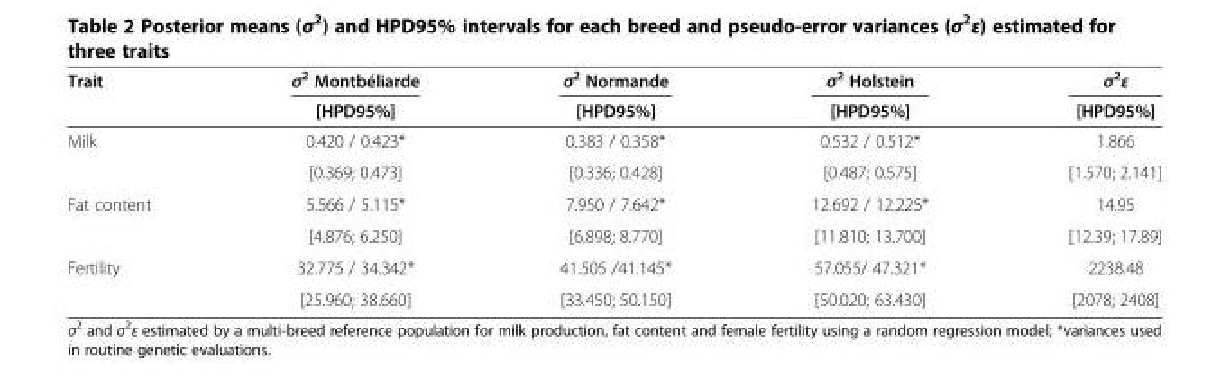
<table><thead><tr><td rowspan="2">Trait</td><td rowspan="2">σ<sup>2</sup> Montbéliarde [HPD95%]</td><td rowspan="2">σ<sup>2</sup> Normande [HPD95%]</td><td rowspan="2">σ<sup>2</sup> Holstein [HPD95%]</td><td rowspan="2">σ<sup>2</sup>ε [HPD95%]</td></tr><tr></tr></thead><tbody><tr><td rowspan="2">Milk</td><td>0.420 / 0.423*</td><td>0.383 / 0.358*</td><td>0.532 / 0.512*</td><td>1.866</td></tr><tr><td>[0.369; 0.473]</td><td>[0.336; 0.428]</td><td>[0.487; 0.575]</td><td>[1.570; 2.141]</td></tr><tr><td rowspan="2">Fat content</td><td>5.566 / 5.115*</td><td>7.950 / 7.642*</td><td>12.692 / 12.225*</td><td>14.95</td></tr><tr><td>[4.876; 6.250]</td><td>[6.898; 8.770]</td><td>[11.810; 13.700]</td><td>[12.39; 17.89]</td></tr><tr><td rowspan="2">Fertility</td><td>32.775 / 34.342*</td><td>41.505 /41.145*</td><td>57.055/ 47.321*</td><td>2238.48</td></tr><tr><td>[25.960; 38.660]</td><td>[33.450; 50.150]</td><td>[50.020; 63.430]</td><td>[2078; 2408]</td></tr></tbody></table>